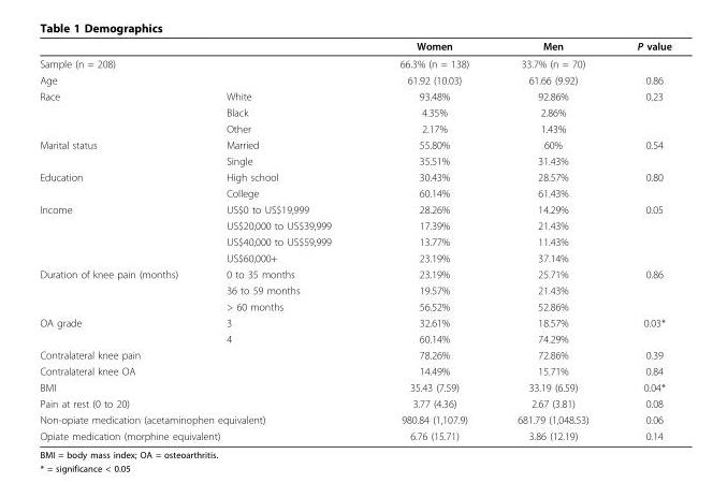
<table><thead><tr><td></td><td></td><td>Women</td><td>Men</td><td>P value</td></tr></thead><tbody><tr><td colspan="2">Sample (n = 208)</td><td>66.3% (n = 138)</td><td>33.7% (n = 70)</td><td></td></tr><tr><td colspan="2">Age</td><td>61.92 (10.03)</td><td>61.66 (9.92)</td><td>0.86</td></tr><tr><td rowspan="3">Race</td><td>White</td><td>93.48%</td><td>92.86%</td><td>0.23</td></tr><tr><td>Black</td><td>4.35%</td><td>2.86%</td><td></td></tr><tr><td>Other</td><td>2.17%</td><td>1.43%</td><td></td></tr><tr><td rowspan="2">Marital status</td><td>Married</td><td>55.80%</td><td>60%</td><td>0.54</td></tr><tr><td>Single</td><td>35.51%</td><td>31.43%</td><td></td></tr><tr><td rowspan="2">Education</td><td>High school</td><td>30.43%</td><td>28.57%</td><td>0.80</td></tr><tr><td>College</td><td>60.14%</td><td>61.43%</td><td></td></tr><tr><td rowspan="4">Income</td><td>US$0 to US$19,999</td><td>28.26%</td><td>14.29%</td><td>0.05</td></tr><tr><td>US$20,000 to US$39,999</td><td>17.39%</td><td>21.43%</td><td></td></tr><tr><td>US$40,000 to US$59,999</td><td>13.77%</td><td>11.43%</td><td></td></tr><tr><td>US$60,000+</td><td>23.19%</td><td>37.14%</td><td></td></tr><tr><td rowspan="3">Duration of knee pain (months)</td><td>0 to 35 months</td><td>23.19%</td><td>25.71%</td><td>0.86</td></tr><tr><td>36 to 59 months</td><td>19.57%</td><td>21.43%</td><td></td></tr><tr><td>&gt; 60 months</td><td>56.52%</td><td>52.86%</td><td></td></tr><tr><td rowspan="2">OA grade</td><td>3</td><td>32.61%</td><td>18.57%</td><td>0.03*</td></tr><tr><td>4</td><td>60.14%</td><td>74.29%</td><td></td></tr><tr><td colspan="2">Contralateral knee pain</td><td>78.26%</td><td>72.86%</td><td>0.39</td></tr><tr><td colspan="2">Contralateral knee OA</td><td>14.49%</td><td>15.71%</td><td>0.84</td></tr><tr><td colspan="2">BMI</td><td>35.43 (7.59)</td><td>33.19 (6.59)</td><td>0.04*</td></tr><tr><td colspan="2">Pain at rest (0 to 20)</td><td>3.77 (4.36)</td><td>2.67 (3.81)</td><td>0.08</td></tr><tr><td colspan="2">Non-opiate medication (acetaminophen equivalent)</td><td>980.84 (1,107.9)</td><td>681.79 (1,048.53)</td><td>0.06</td></tr><tr><td colspan="2">Opiate medication (morphine equivalent)</td><td>6.76 (15.71)</td><td>3.86 (12.19)</td><td>0.14</td></tr></tbody></table>